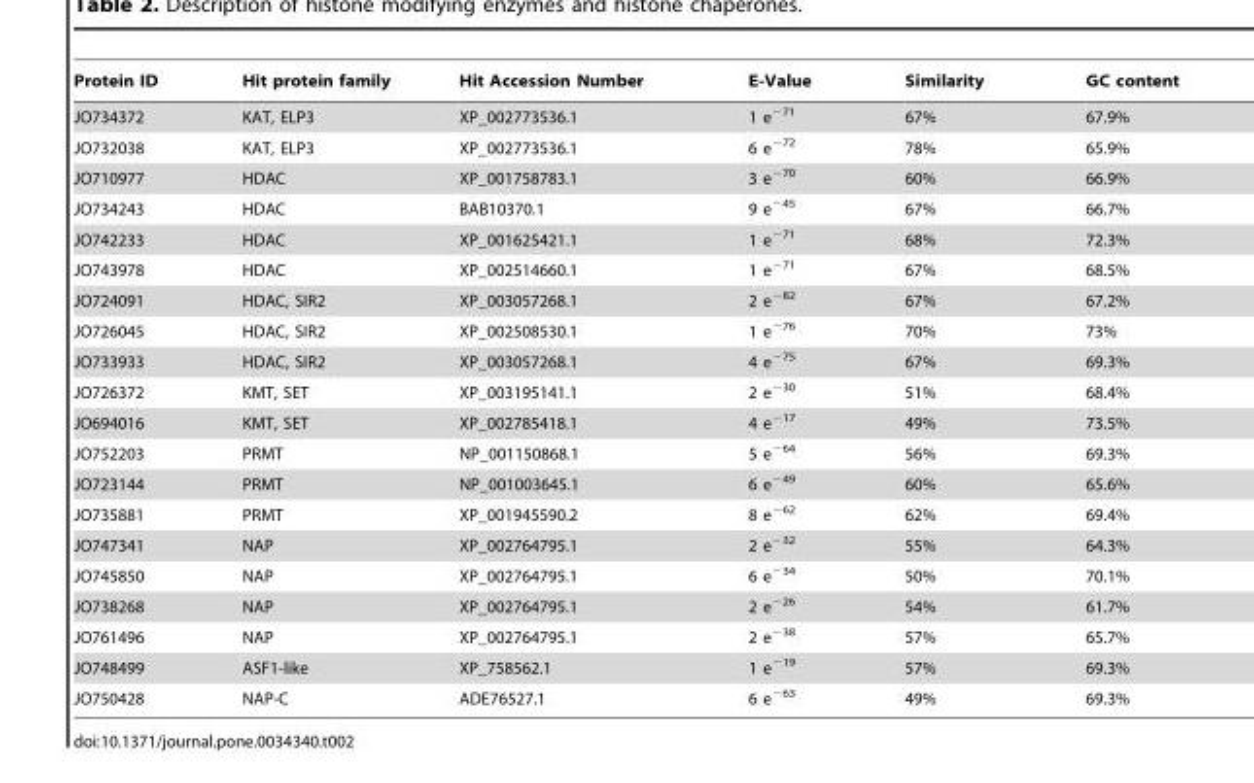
<table><thead><tr><td>Protein ID</td><td>Hit protein family</td><td>Hit Accession Number</td><td>E-Value</td><td>Similarity</td><td>GC content</td></tr></thead><tbody><tr><td>JO734372</td><td>KAT, ELP3</td><td>XP_002773536.1</td><td>1 e<sup>−71</sup></td><td>67%</td><td>67.9%</td></tr><tr><td>JO732038</td><td>KAT, ELP3</td><td>XP_002773536.1</td><td>6 e<sup>−72</sup></td><td>78%</td><td>65.9%</td></tr><tr><td>JO710977</td><td>HDAC</td><td>XP_001758783.1</td><td>3 e<sup>−70</sup></td><td>60%</td><td>66.9%</td></tr><tr><td>JO734243</td><td>HDAC</td><td>BAB10370.1</td><td>9 e<sup>−45</sup></td><td>67%</td><td>66.7%</td></tr><tr><td>JO742233</td><td>HDAC</td><td>XP_001625421.1</td><td>1 e<sup>−71</sup></td><td>68%</td><td>72.3%</td></tr><tr><td>JO743978</td><td>HDAC</td><td>XP_002514660.1</td><td>1 e<sup>−71</sup></td><td>67%</td><td>68.5%</td></tr><tr><td>JO724091</td><td>HDAC, SIR2</td><td>XP_003057268.1</td><td>2 e<sup>−82</sup></td><td>67%</td><td>67.2%</td></tr><tr><td>JO726045</td><td>HDAC, SIR2</td><td>XP_002508530.1</td><td>1 e<sup>−76</sup></td><td>70%</td><td>73%</td></tr><tr><td>JO733933</td><td>HDAC, SIR2</td><td>XP_003057268.1</td><td>4 e<sup>−75</sup></td><td>67%</td><td>69.3%</td></tr><tr><td>JO726372</td><td>KMT, SET</td><td>XP_003195141.1</td><td>2 e<sup>−30</sup></td><td>51%</td><td>68.4%</td></tr><tr><td>JO694016</td><td>KMT, SET</td><td>XP_002785418.1</td><td>4 e<sup>−17</sup></td><td>49%</td><td>73.5%</td></tr><tr><td>JO752203</td><td>PRMT</td><td>NP_001150868.1</td><td>5 e<sup>−64</sup></td><td>56%</td><td>69.3%</td></tr><tr><td>JO723144</td><td>PRMT</td><td>NP_001003645.1</td><td>6 e<sup>−49</sup></td><td>60%</td><td>65.6%</td></tr><tr><td>JO735881</td><td>PRMT</td><td>XP_001945590.2</td><td>8 e<sup>−62</sup></td><td>62%</td><td>69.4%</td></tr><tr><td>JO747341</td><td>NAP</td><td>XP_002764795.1</td><td>2 e<sup>−32</sup></td><td>55%</td><td>64.3%</td></tr><tr><td>JO745850</td><td>NAP</td><td>XP_002764795.1</td><td>6 e<sup>−34</sup></td><td>50%</td><td>70.1%</td></tr><tr><td>JO738268</td><td>NAP</td><td>XP_002764795.1</td><td>2 e<sup>−26</sup></td><td>54%</td><td>61.7%</td></tr><tr><td>JO761496</td><td>NAP</td><td>XP_002764795.1</td><td>2 e<sup>−38</sup></td><td>57%</td><td>65.7%</td></tr><tr><td>JO748499</td><td>ASF1-like</td><td>XP_758562.1</td><td>1 e<sup>−19</sup></td><td>57%</td><td>69.3%</td></tr><tr><td>JO750428</td><td>NAP-C</td><td>ADE76527.1</td><td>6 e<sup>−63</sup></td><td>49%</td><td>69.3%</td></tr></tbody></table>